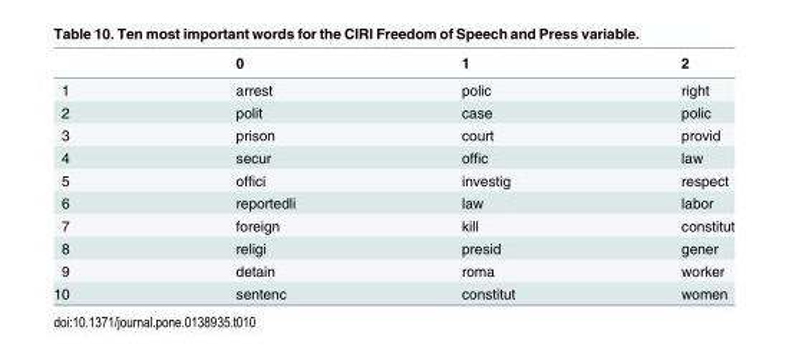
<table><thead><tr><td></td><td>0</td><td>1</td><td>2</td></tr></thead><tbody><tr><td>1</td><td>arrest</td><td>polic</td><td>right</td></tr><tr><td>2</td><td>polit</td><td>case</td><td>polic</td></tr><tr><td>3</td><td>prison</td><td>court</td><td>provid</td></tr><tr><td>4</td><td>secur</td><td>offic</td><td>law</td></tr><tr><td>5</td><td>offici</td><td>investig</td><td>respect</td></tr><tr><td>6</td><td>reportedli</td><td>law</td><td>labor</td></tr><tr><td>7</td><td>foreign</td><td>kill</td><td>constitut</td></tr><tr><td>8</td><td>religi</td><td>presid</td><td>gener</td></tr><tr><td>9</td><td>detain</td><td>roma</td><td>worker</td></tr><tr><td>10</td><td>sentenc</td><td>constitut</td><td>women</td></tr></tbody></table>